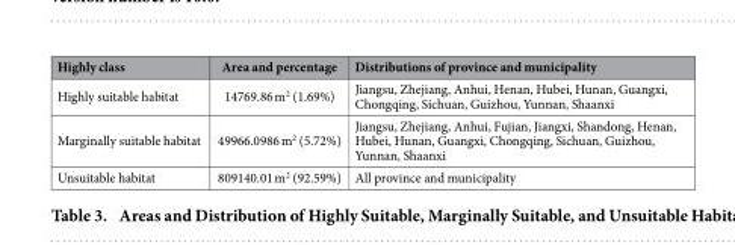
<table><thead><tr><td>Highly class</td><td>Area and percentage</td><td>Distributions of province and municipality</td></tr></thead><tbody><tr><td>Highly suitable habitat</td><td>14769.86 m<sup>2</sup> (1.69%)</td><td>Jiangsu, Zhejiang, Anhui, Henan, Hubei, Hunan, Guangxi, Chongqing, Sichuan, Guizhou, Yunnan, Shaanxi</td></tr><tr><td>Marginally suitable habitat</td><td>49966.0986 m<sup>2</sup> (5.72%)</td><td>Jiangsu, Zhejiang, Anhui, Fujian, Jiangxi, Shandong, Henan, Hubei, Hunan, Guangxi, Chongqing, Sichuan, Guizhou, Yunnan, Shaanxi</td></tr><tr><td>Unsuitable habitat</td><td>809140.01 m<sup>2</sup> (92.59%)</td><td>All province and municipality</td></tr></tbody></table>